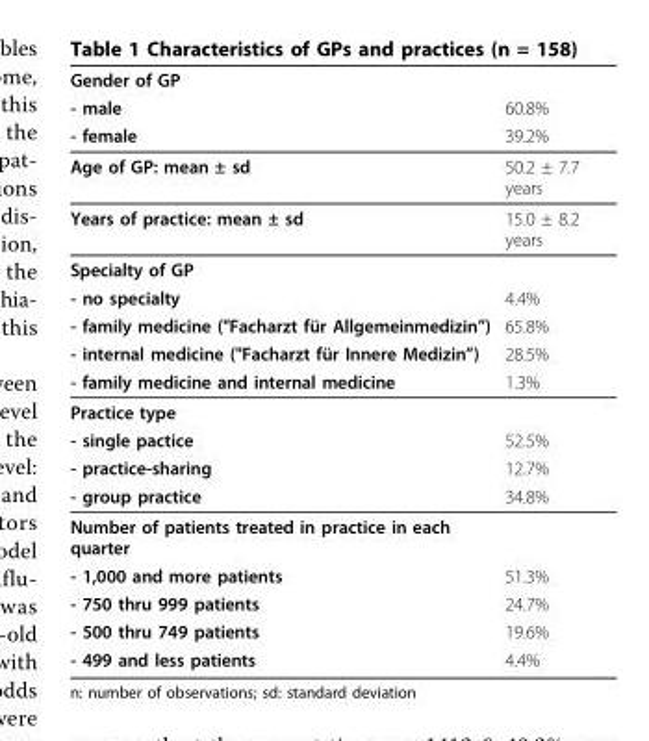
<table><thead><tr><td rowspan="3">Gender of GP - male - female</td><td rowspan="3">60.8% 39.2%</td></tr><tr></tr><tr></tr></thead><tbody><tr><td>Age of GP: mean ± sd</td><td>50.2 ± 7.7 years</td></tr><tr><td>Years of practice: mean ± sd</td><td>15.0 ± 8.2 years</td></tr><tr><td colspan="2">Specialty of GP</td></tr><tr><td>- no specialty</td><td>4.4%</td></tr><tr><td>- family medicine (&quot;Facharzt für Allgemeinmedizin”)</td><td>65.8%</td></tr><tr><td>- internal medicine (&quot;Facharzt für Innere Medizin”)</td><td>28.5%</td></tr><tr><td>- family medicine and internal medicine</td><td>1.3%</td></tr><tr><td colspan="2">Practice type</td></tr><tr><td>- single pactice</td><td>52.5%</td></tr><tr><td>- practice-sharing</td><td>12.7%</td></tr><tr><td>- group practice</td><td>34.8%</td></tr><tr><td colspan="2">Number of patients treated in practice in each quarter</td></tr><tr><td>- 1,000 and more patients</td><td>51.3%</td></tr><tr><td>- 750 thru 999 patients</td><td>24.7%</td></tr><tr><td>- 500 thru 749 patients</td><td>19.6%</td></tr><tr><td>- 499 and less patients</td><td>4.4%</td></tr></tbody></table>